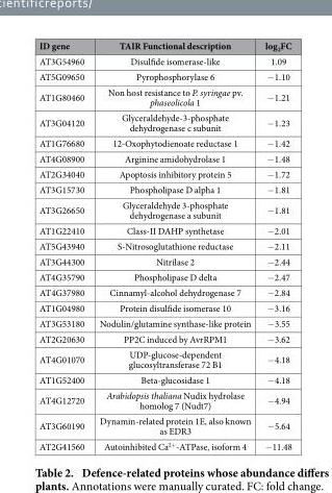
<table><thead><tr><td>ID gene</td><td>TAIR Functional description</td><td>log<sub>2</sub>FC</td></tr></thead><tbody><tr><td>AT3G54960</td><td>Disulfide isomerase-like</td><td>1.09</td></tr><tr><td>AT5G09650</td><td>Pyrophosphorylase 6</td><td>− 1.10</td></tr><tr><td>AT1G80460</td><td>Non host resistance to P. syringae pv. phaseolicola 1</td><td>− 1.21</td></tr><tr><td>AT3G04120</td><td>Glyceraldehyde-3-phosphate dehydrogenase c subunit</td><td>− 1.23</td></tr><tr><td>AT1G76680</td><td>12-Oxophytodienoate reductase 1</td><td>− 1.42</td></tr><tr><td>AT4G08900</td><td>Arginine amidohydrolase 1</td><td>− 1.48</td></tr><tr><td>AT2G34040</td><td>Apoptosis inhibitory protein 5</td><td>− 1.72</td></tr><tr><td>AT3G15730</td><td>Phospholipase D alpha 1</td><td>− 1.81</td></tr><tr><td>AT3G26650</td><td>Glyceraldehyde 3-phosphate dehydrogenase a subunit</td><td>− 1.81</td></tr><tr><td>AT1G22410</td><td>Class-II DAHP synthetase</td><td>− 2.01</td></tr><tr><td>AT5G43940</td><td>S-Nitrosoglutathione reductase</td><td>− 2.11</td></tr><tr><td>AT3G44300</td><td>Nitrilase 2</td><td>− 2.44</td></tr><tr><td>AT4G35790</td><td>Phospholipase D delta</td><td>− 2.47</td></tr><tr><td>AT4G37980</td><td>Cinnamyl-alcohol dehydrogenase 7</td><td>− 2.84</td></tr><tr><td>AT1G04980</td><td>Protein disulfide isomerase 10</td><td>− 3.16</td></tr><tr><td>AT3G53180</td><td>Nodulin/glutamine synthase-like protein</td><td>− 3.55</td></tr><tr><td>AT2G20630</td><td>PP2C induced by AvrRPM1</td><td>− 3.62</td></tr><tr><td>AT4G01070</td><td>UDP-glucose-dependent glucosyltransferase 72 B1</td><td>− 4.18</td></tr><tr><td>AT1G52400</td><td>Beta-glucosidase 1</td><td>− 4.18</td></tr><tr><td>AT4G12720</td><td>Arabidopsis thaliana Nudix hydrolase homolog 7 (Nudt7)</td><td>− 4.94</td></tr><tr><td>AT3G60190</td><td>Dynamin-related protein 1E, also known as EDR3</td><td>− 5.64</td></tr><tr><td>AT2G41560</td><td>Autoinhibited Ca<sup>2+</sup>-ATPase, isoform 4</td><td>− 11.48</td></tr></tbody></table>